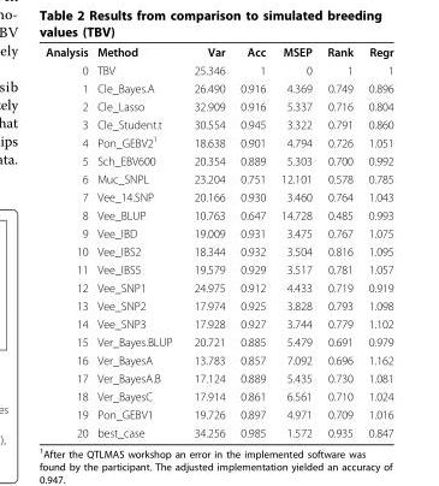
<table><tbody><tr><td>Analysis</td><td>Method</td><td>Var</td><td>Acc</td><td>MSEP</td><td>Rank</td><td>Regr</td></tr><tr><td>0</td><td>TBV</td><td>25.346</td><td>1</td><td>0</td><td>1</td><td>1</td></tr><tr><td>1</td><td>Cle_Bayes.A</td><td>26.490</td><td>0.916</td><td>4.369</td><td>0.749</td><td>0.896</td></tr><tr><td>2</td><td>Cle_Lasso</td><td>32.909</td><td>0.916</td><td>5.337</td><td>0.716</td><td>0.804</td></tr><tr><td>3</td><td>Cle_Student.t</td><td>30.554</td><td>0.945</td><td>3.322</td><td>0.791</td><td>0.860</td></tr><tr><td>4</td><td>Pon_GEBV2<sup>1</sup></td><td>18.638</td><td>0.901</td><td>4.794</td><td>0.726</td><td>1.051</td></tr><tr><td>5</td><td>Sch_EBV600</td><td>20.354</td><td>0.889</td><td>5.303</td><td>0.700</td><td>0.992</td></tr><tr><td>6</td><td>Muc_SNPL</td><td>23.204</td><td>0.751</td><td>12.101</td><td>0.578</td><td>0.785</td></tr><tr><td>7</td><td>Vee_14.SNP</td><td>20.166</td><td>0.930</td><td>3.460</td><td>0.764</td><td>1.043</td></tr><tr><td>8</td><td>Vee_BLUP</td><td>10.763</td><td>0.647</td><td>14.728</td><td>0.485</td><td>0.993</td></tr><tr><td>9</td><td>Vee_IBD</td><td>19.009</td><td>0.931</td><td>3.475</td><td>0.767</td><td>1.075</td></tr><tr><td>10</td><td>Vee_IBS2</td><td>18.344</td><td>0.932</td><td>3.504</td><td>0.816</td><td>1.095</td></tr><tr><td>11</td><td>Vee_IBS5</td><td>19.579</td><td>0.929</td><td>3.517</td><td>0.781</td><td>1.057</td></tr><tr><td>12</td><td>Vee_SNP1</td><td>24.975</td><td>0.912</td><td>4.433</td><td>0.719</td><td>0.919</td></tr><tr><td>13</td><td>Vee_SNP2</td><td>17.974</td><td>0.925</td><td>3.828</td><td>0.793</td><td>1.098</td></tr><tr><td>14</td><td>Vee_SNP3</td><td>17.928</td><td>0.927</td><td>3.744</td><td>0.779</td><td>1.102</td></tr><tr><td>15</td><td>Ver_Bayes.BLUP</td><td>20.721</td><td>0.885</td><td>5.479</td><td>0.691</td><td>0.979</td></tr><tr><td>16</td><td>Ver_BayesA</td><td>13.783</td><td>0.857</td><td>7.092</td><td>0.696</td><td>1.162</td></tr><tr><td>17</td><td>Ver_BayesA.B</td><td>17.124</td><td>0.889</td><td>5.435</td><td>0.730</td><td>1.081</td></tr><tr><td>18</td><td>Ver_BayesC</td><td>17.914</td><td>0.861</td><td>6.561</td><td>0.710</td><td>1.024</td></tr><tr><td>19</td><td>Pon_GEBV1</td><td>19.726</td><td>0.897</td><td>4.971</td><td>0.709</td><td>1.016</td></tr><tr><td>20</td><td>best_case</td><td>34.256</td><td>0.985</td><td>1.572</td><td>0.935</td><td>0.847</td></tr></tbody></table>